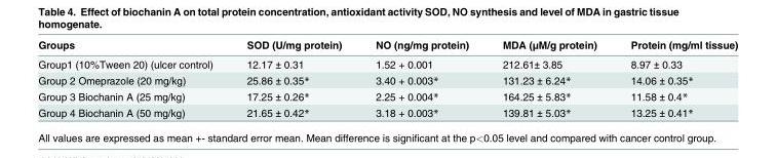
<table><thead><tr><td>Groups</td><td>SOD (U/mg protein)</td><td>NO (ng/mg protein)</td><td>MDA (μM/g protein)</td><td>Protein (mg/ml tissue)</td></tr></thead><tbody><tr><td>Group1 (10%Tween 20) (ulcer control)</td><td>12.17 ± 0.31</td><td>1.52 + 0.001</td><td>212.61± 3.85</td><td>8.97 ± 0.33</td></tr><tr><td>Group 2 Omeprazole (20 mg/kg)</td><td>25.86 ± 0.35*</td><td>3.40 + 0.003*</td><td>131.23 ± 6.24*</td><td>14.06 ± 0.35*</td></tr><tr><td>Group 3 Biochanin A (25 mg/kg)</td><td>17.25 ± 0.26*</td><td>2.25 + 0.004*</td><td>164.25 ± 5.83*</td><td>11.58 ± 0.4*</td></tr><tr><td>Group 4 Biochanin A (50 mg/kg)</td><td>21.65 ± 0.42*</td><td>3.18 + 0.003*</td><td>139.81 ± 5.03*</td><td>13.25 ± 0.41*</td></tr></tbody></table>